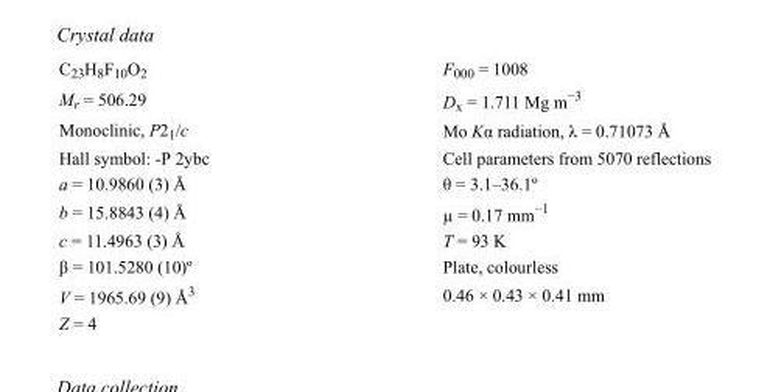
<table><tbody><tr><td>C<sub>23</sub>H<sub>8</sub>F<sub>10</sub>O<sub>2</sub></td><td>F000 = 1008</td></tr><tr><td>M<sub>r</sub> = 506.29</td><td>D<sub>x</sub> = 1.711 Mg m<sup>−3</sup></td></tr><tr><td>Monoclinic, P2<sub>1</sub>/c</td><td>Mo Kα radiation, λ = 0.71073 Å</td></tr><tr><td>Hall symbol: -P 2ybc</td><td>Cell parameters from 5070 reflections</td></tr><tr><td>a = 10.9860 (3) Å</td><td>θ = 3.1–36.1º</td></tr><tr><td>b = 15.8843 (4) Å</td><td>µ = 0.17 mm<sup>−1</sup></td></tr><tr><td>c = 11.4963 (3) Å</td><td>T = 93 K</td></tr><tr><td>β = 101.5280 (10)º</td><td>Plate, colourless</td></tr><tr><td>V = 1965.69 (9) Å<sup>3</sup></td><td>0.46 × 0.43 × 0.41 mm</td></tr><tr><td>Z = 4</td><td></td></tr></tbody></table>